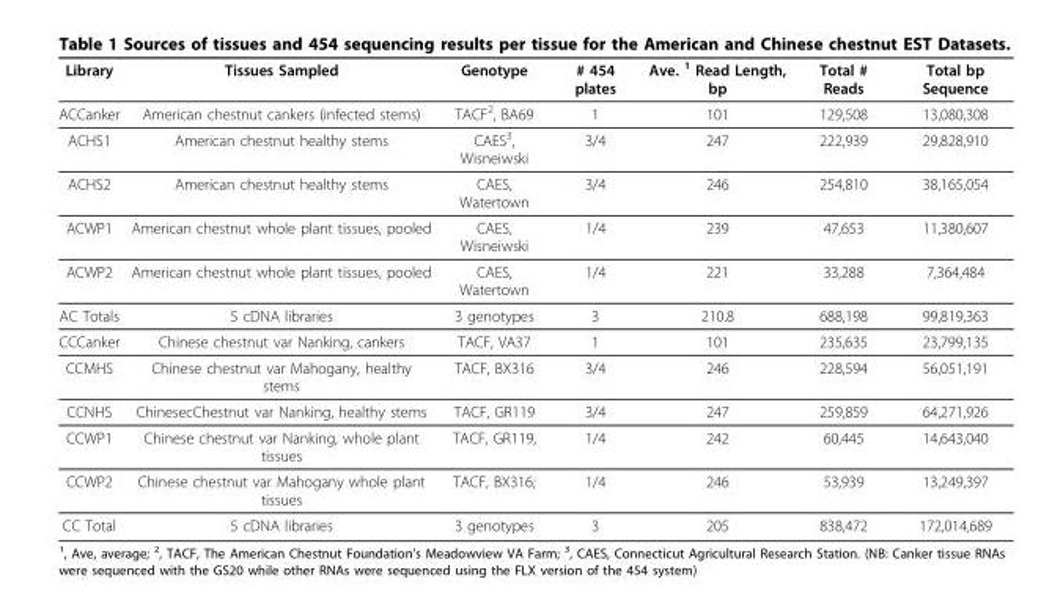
<table><thead><tr><td>Library</td><td>Tissues Sampled</td><td>Genotype</td><td># 454 plates</td><td>Ave. <sup>1</sup> Read Length, bp</td><td>Total # Reads</td><td>Total bp Sequence</td></tr></thead><tbody><tr><td>ACCanker</td><td>American chestnut cankers (infected stems)</td><td>TACF<sup>2</sup>, BA69</td><td>1</td><td>101</td><td>129,508</td><td>13,080,308</td></tr><tr><td>ACHS1</td><td>American chestnut healthy stems</td><td>CAES<sup>3</sup>, Wisneiwski</td><td>3/4</td><td>247</td><td>222,939</td><td>29,828,910</td></tr><tr><td>ACHS2</td><td>American chestnut healthy stems</td><td>CAES, Watertown</td><td>3/4</td><td>246</td><td>254,810</td><td>38,165,054</td></tr><tr><td>ACWP1</td><td>American chestnut whole plant tissues, pooled</td><td>CAES, Wisneiwski</td><td>1/4</td><td>239</td><td>47,653</td><td>11,380,607</td></tr><tr><td>ACWP2</td><td>American chestnut whole plant tissues, pooled</td><td>CAES, Watertown</td><td>1/4</td><td>221</td><td>33,288</td><td>7,364,484</td></tr><tr><td>AC Totals</td><td>5 cDNA libraries</td><td>3 genotypes</td><td>3</td><td>210.8</td><td>688,198</td><td>99,819,363</td></tr><tr><td>CCCanker</td><td>Chinese chestnut var Nanking, cankers</td><td>TACF, VA37</td><td>1</td><td>101</td><td>235,635</td><td>23,799,135</td></tr><tr><td>CCMHS</td><td>Chinese chestnut var Mahogany, healthy stems</td><td>TACF, BX316</td><td>3/4</td><td>246</td><td>228,594</td><td>56,051,191</td></tr><tr><td>CCNHS</td><td>ChinesecChestnut var Nanking, healthy stems</td><td>TACF, GR119</td><td>3/4</td><td>247</td><td>259,859</td><td>64,271,926</td></tr><tr><td>CCWP1</td><td>Chinese chestnut var Nanking, whole plant tissues</td><td>TACF, GR119,</td><td>1/4</td><td>242</td><td>60,445</td><td>14,643,040</td></tr><tr><td>CCWP2</td><td>Chinese chestnut var Mahogany whole plant tissues</td><td>TACF, BX316;</td><td>1/4</td><td>246</td><td>53,939</td><td>13,249,397</td></tr><tr><td>CC Total</td><td>5 cDNA libraries</td><td>3 genotypes</td><td>3</td><td>205</td><td>838,472</td><td>172,014,689</td></tr></tbody></table>